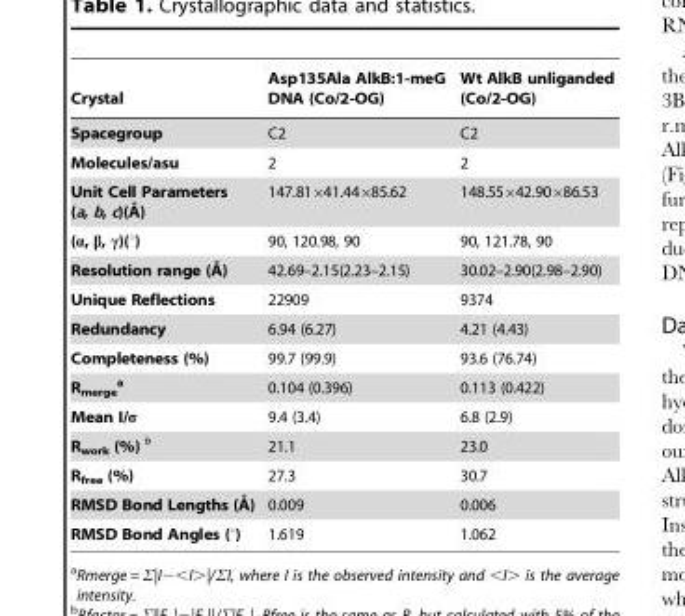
<table><thead><tr><td>Crystal</td><td>Asp135Ala AlkB:1-meG DNA (Co/2-OG)</td><td>Wt AlkB unliganded (Co/2-OG)</td></tr></thead><tbody><tr><td>Spacegroup</td><td>C2</td><td>C2</td></tr><tr><td>Molecules/asu</td><td>2</td><td>2</td></tr><tr><td>Unit Cell Parameters (a, b, c)(A˚)</td><td>147.81×41.44×85.62</td><td>148.55×42.90×86.53</td></tr><tr><td>(α, β, γ)(°)</td><td>90, 120.98, 90</td><td>90, 121.78, 90</td></tr><tr><td>Resolution range (A˚)</td><td>42.69–2.15(2.23–2.15)</td><td>30.02–2.90(2.98–2.90)</td></tr><tr><td>Unique Reflections</td><td>22909</td><td>9374</td></tr><tr><td>Redundancy</td><td>6.94 (6.27)</td><td>4.21 (4.43)</td></tr><tr><td>Completeness (%)</td><td>99.7 (99.9)</td><td>93.6 (76.74)</td></tr><tr><td>R<sub>merge</sub> a</td><td>0.104 (0.396)</td><td>0.113 (0.422)</td></tr><tr><td>Mean I/σ</td><td>9.4 (3.4)</td><td>6.8 (2.9)</td></tr><tr><td>R<sub>work</sub> (%) b</td><td>21.1</td><td>23.0</td></tr><tr><td>R<sub>free</sub> (%)</td><td>27.3</td><td>30.7</td></tr><tr><td>RMSD Bond Lengths (A˚)</td><td>0.009</td><td>0.006</td></tr><tr><td>RMSD Bond Angles (°)</td><td>1.619</td><td>1.062</td></tr></tbody></table>